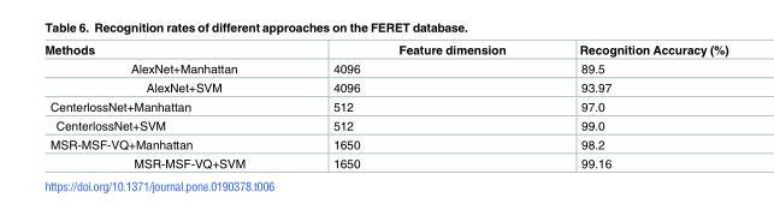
<table><thead><tr><td>Methods</td><td>Feature dimension</td><td>Recognition Accuracy (%)</td></tr></thead><tbody><tr><td>AlexNet+Manhattan</td><td>4096</td><td>89.5</td></tr><tr><td>AlexNet+SVM</td><td>4096</td><td>93.97</td></tr><tr><td>CenterlossNet+Manhattan</td><td>512</td><td>97.0</td></tr><tr><td>CenterlossNet+SVM</td><td>512</td><td>99.0</td></tr><tr><td>MSR-MSF-VQ+Manhattan</td><td>1650</td><td>98.2</td></tr><tr><td>MSR-MSF-VQ+SVM</td><td>1650</td><td>99.16</td></tr></tbody></table>